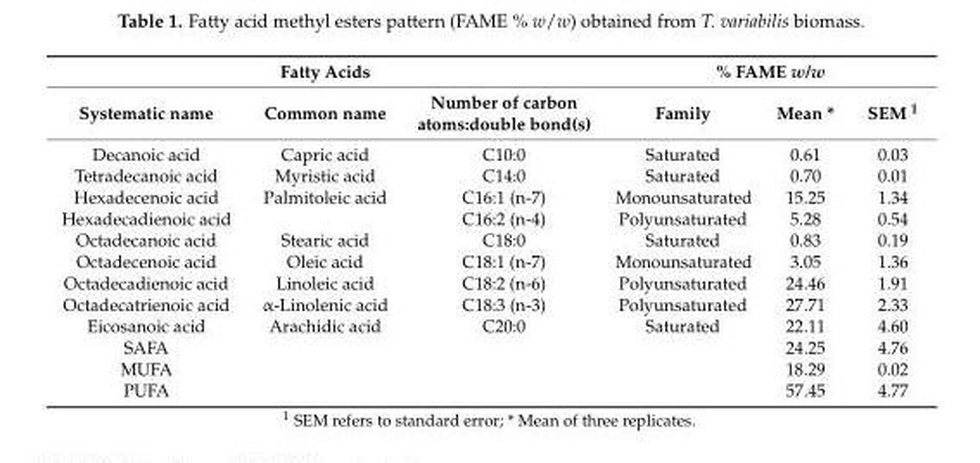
<table><thead><tr><td colspan="3">Fatty Acids</td><td colspan="3">% FAME w/w</td></tr><tr><td>Systematic name</td><td>Common name</td><td>Number of carbon atoms:double bond(s)</td><td>Family</td><td>Mean *</td><td>SEM <sup>1</sup></td></tr></thead><tbody><tr><td>Decanoic acid</td><td>Capric acid</td><td>C10:0</td><td>Saturated</td><td>0.61</td><td>0.03</td></tr><tr><td>Tetradecanoic acid</td><td>Myristic acid</td><td>C14:0</td><td>Saturated</td><td>0.70</td><td>0.01</td></tr><tr><td>Hexadecenoic acid</td><td>Palmitoleic acid</td><td>C16:1 (n-7)</td><td>Monounsaturated</td><td>15.25</td><td>1.34</td></tr><tr><td>Hexadecadienoic acid</td><td></td><td>C16:2 (n-4)</td><td>Polyunsaturated</td><td>5.28</td><td>0.54</td></tr><tr><td>Octadecanoic acid</td><td>Stearic acid</td><td>C18:0</td><td>Saturated</td><td>0.83</td><td>0.19</td></tr><tr><td>Octadecenoic acid</td><td>Oleic acid</td><td>C18:1 (n-7)</td><td>Monounsaturated</td><td>3.05</td><td>1.36</td></tr><tr><td>Octadecadienoic acid</td><td>Linoleic acid</td><td>C18:2 (n-6)</td><td>Polyunsaturated</td><td>24.46</td><td>1.91</td></tr><tr><td>Octadecatrienoic acid</td><td>α-Linolenic acid</td><td>C18:3 (n-3)</td><td>Polyunsaturated</td><td>27.71</td><td>2.33</td></tr><tr><td>Eicosanoic acid</td><td>Arachidic acid</td><td>C20:0</td><td>Saturated</td><td>22.11</td><td>4.60</td></tr><tr><td>SAFA</td><td></td><td></td><td></td><td>24.25</td><td>4.76</td></tr><tr><td>MUFA</td><td></td><td></td><td></td><td>18.29</td><td>0.02</td></tr><tr><td>PUFA</td><td></td><td></td><td></td><td>57.45</td><td>4.77</td></tr></tbody></table>